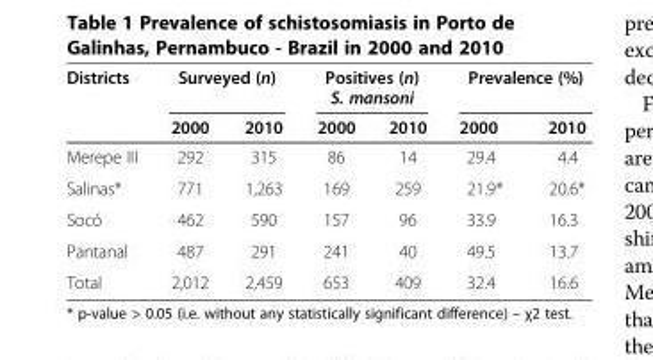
<table><thead><tr><td rowspan="2">Districts</td><td colspan="2">Surveyed (n)</td><td colspan="2">Positives (n) S. mansoni</td><td colspan="2">Prevalence (%)</td></tr><tr><td>2000</td><td>2010</td><td>2000</td><td>2010</td><td>2000</td><td>2010</td></tr></thead><tbody><tr><td>Merepe III</td><td>292</td><td>315</td><td>86</td><td>14</td><td>29.4</td><td>4.4</td></tr><tr><td>Salinas*</td><td>771</td><td>1,263</td><td>169</td><td>259</td><td>21.9*</td><td>20.6*</td></tr><tr><td>Socó</td><td>462</td><td>590</td><td>157</td><td>96</td><td>33.9</td><td>16.3</td></tr><tr><td>Pantanal</td><td>487</td><td>291</td><td>241</td><td>40</td><td>49.5</td><td>13.7</td></tr><tr><td>Total</td><td>2,012</td><td>2,459</td><td>653</td><td>409</td><td>32.4</td><td>16.6</td></tr></tbody></table>